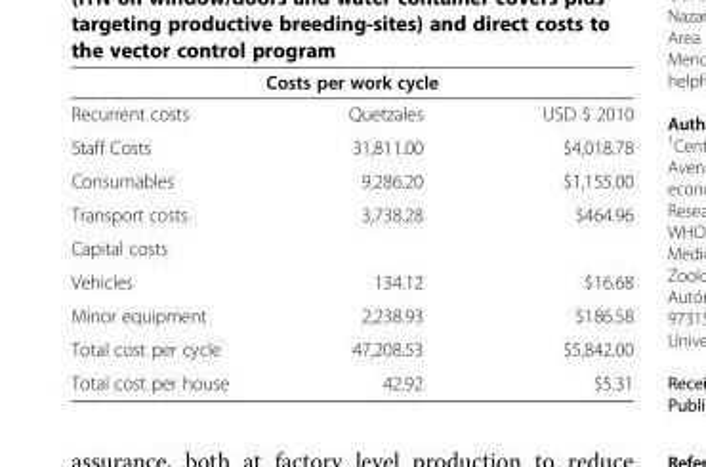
<table><thead><tr><td colspan="3">Costs per work cycle</td></tr><tr><td>Recurrent costs</td><td>Quetzales</td><td>USD $ 2010</td></tr></thead><tbody><tr><td>Staff Costs</td><td>31,811.00</td><td>$4,018.78</td></tr><tr><td>Consumables</td><td>9,286.20</td><td>$1,155.00</td></tr><tr><td>Transport costs</td><td>3,738.28</td><td>$464.96</td></tr><tr><td colspan="3">Capital costs</td></tr><tr><td>Vehicles</td><td>134.12</td><td>$16.68</td></tr><tr><td>Minor equipment</td><td>2,238.93</td><td>$186.58</td></tr><tr><td>Total cost per cycle</td><td>47,208.53</td><td>$5,842.00</td></tr><tr><td>Total cost per house</td><td>42.92</td><td>$5.31</td></tr></tbody></table>